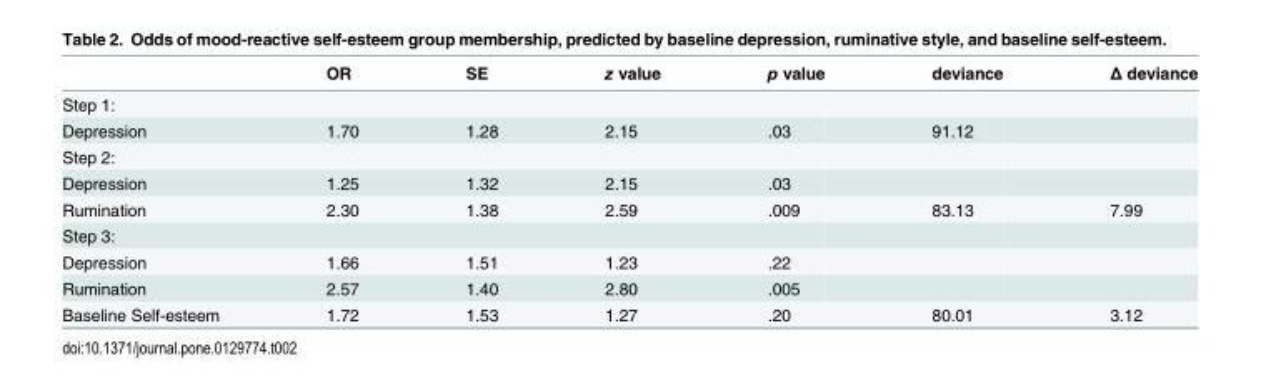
<table><thead><tr><td></td><td>OR</td><td>SE</td><td>z value</td><td>p value</td><td>deviance</td><td>Δ deviance</td></tr></thead><tbody><tr><td colspan="7">Step 1:</td></tr><tr><td>Depression</td><td>1.70</td><td>1.28</td><td>2.15</td><td>.03</td><td>91.12</td><td></td></tr><tr><td colspan="7">Step 2:</td></tr><tr><td>Depression</td><td>1.25</td><td>1.32</td><td>2.15</td><td>.03</td><td></td><td></td></tr><tr><td>Rumination</td><td>2.30</td><td>1.38</td><td>2.59</td><td>.009</td><td>83.13</td><td>7.99</td></tr><tr><td colspan="7">Step 3:</td></tr><tr><td>Depression</td><td>1.66</td><td>1.51</td><td>1.23</td><td>.22</td><td></td><td></td></tr><tr><td>Rumination</td><td>2.57</td><td>1.40</td><td>2.80</td><td>.005</td><td></td><td></td></tr><tr><td>Baseline Self-esteem</td><td>1.72</td><td>1.53</td><td>1.27</td><td>.20</td><td>80.01</td><td>3.12</td></tr></tbody></table>